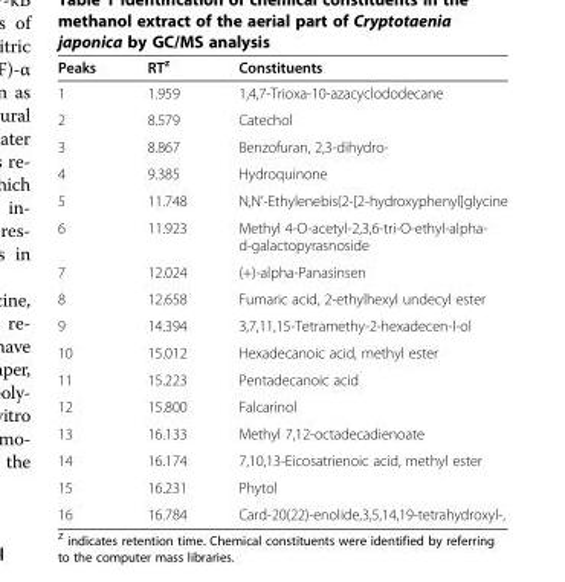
<table><thead><tr><td>Peaks</td><td>RT<sup>z</sup></td><td>Constituents</td></tr></thead><tbody><tr><td>1</td><td>1.959</td><td>1,4,7-Trioxa-10-azacyclododecane</td></tr><tr><td>2</td><td>8.579</td><td>Catechol</td></tr><tr><td>3</td><td>8.867</td><td>Benzofuran, 2,3-dihydro-</td></tr><tr><td>4</td><td>9.385</td><td>Hydroquinone</td></tr><tr><td>5</td><td>11.748</td><td>N,N’-Ethylenebis(2-[2-hydroxyphenyl]glycine</td></tr><tr><td>6</td><td>11.923</td><td>Methyl 4-O-acetyl-2,3,6-tri-O-ethyl-alpha- d-galactopyrasnoside</td></tr><tr><td>7</td><td>12.024</td><td>(+)-alpha-Panasinsen</td></tr><tr><td>8</td><td>12.658</td><td>Fumaric acid, 2-ethylhexyl undecyl ester</td></tr><tr><td>9</td><td>14.394</td><td>3,7,11,15-Tetramethy-2-hexadecen-l-ol</td></tr><tr><td>10</td><td>15.012</td><td>Hexadecanoic acid, methyl ester</td></tr><tr><td>11</td><td>15.223</td><td>Pentadecanoic acid</td></tr><tr><td>12</td><td>15.800</td><td>Falcarinol</td></tr><tr><td>13</td><td>16.133</td><td>Methyl 7,12-octadecadienoate</td></tr><tr><td>14</td><td>16.174</td><td>7,10,13-Eicosatrienoic acid, methyl ester</td></tr><tr><td>15</td><td>16.231</td><td>Phytol</td></tr><tr><td>16</td><td>16.784</td><td>Card-20(22)-enolide,3,5,14,19-tetrahydroxyl-,</td></tr></tbody></table>